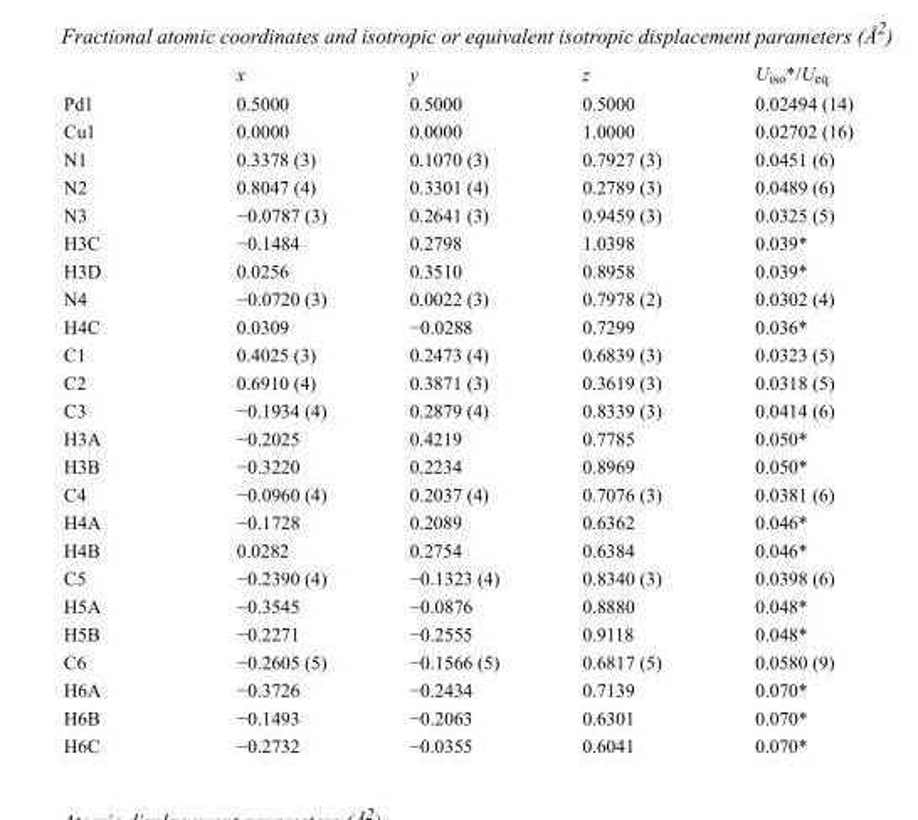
<table><thead><tr><td></td><td>x</td><td>y</td><td>z</td><td>U<sub>iso</sub>*/U<sub>eq</sub></td></tr></thead><tbody><tr><td>Pd1</td><td>0.5000</td><td>0.5000</td><td>0.5000</td><td>0.02494 (14)</td></tr><tr><td>Cu1</td><td>0.0000</td><td>0.0000</td><td>1.0000</td><td>0.02702 (16)</td></tr><tr><td>N1</td><td>0.3378 (3)</td><td>0.1070 (3)</td><td>0.7927 (3)</td><td>0.0451 (6)</td></tr><tr><td>N2</td><td>0.8047 (4)</td><td>0.3301 (4)</td><td>0.2789 (3)</td><td>0.0489 (6)</td></tr><tr><td>N3</td><td>−0.0787 (3)</td><td>0.2641 (3)</td><td>0.9459 (3)</td><td>0.0325 (5)</td></tr><tr><td>H3C</td><td>−0.1484</td><td>0.2798</td><td>1.0398</td><td>0.039*</td></tr><tr><td>H3D</td><td>0.0256</td><td>0.3510</td><td>0.8958</td><td>0.039*</td></tr><tr><td>N4</td><td>−0.0720 (3)</td><td>0.0022 (3)</td><td>0.7978 (2)</td><td>0.0302 (4)</td></tr><tr><td>H4C</td><td>0.0309</td><td>−0.0288</td><td>0.7299</td><td>0.036*</td></tr><tr><td>C1</td><td>0.4025 (3)</td><td>0.2473 (4)</td><td>0.6839 (3)</td><td>0.0323 (5)</td></tr><tr><td>C2</td><td>0.6910 (4)</td><td>0.3871 (3)</td><td>0.3619 (3)</td><td>0.0318 (5)</td></tr><tr><td>C3</td><td>−0.1934 (4)</td><td>0.2879 (4)</td><td>0.8339 (3)</td><td>0.0414 (6)</td></tr><tr><td>H3A</td><td>−0.2025</td><td>0.4219</td><td>0.7785</td><td>0.050*</td></tr><tr><td>H3B</td><td>−0.3220</td><td>0.2234</td><td>0.8969</td><td>0.050*</td></tr><tr><td>C4</td><td>−0.0960 (4)</td><td>0.2037 (4)</td><td>0.7076 (3)</td><td>0.0381 (6)</td></tr><tr><td>H4A</td><td>−0.1728</td><td>0.2089</td><td>0.6362</td><td>0.046*</td></tr><tr><td>H4B</td><td>0.0282</td><td>0.2754</td><td>0.6384</td><td>0.046*</td></tr><tr><td>C5</td><td>−0.2390 (4)</td><td>−0.1323 (4)</td><td>0.8340 (3)</td><td>0.0398 (6)</td></tr><tr><td>H5A</td><td>−0.3545</td><td>−0.0876</td><td>0.8880</td><td>0.048*</td></tr><tr><td>H5B</td><td>−0.2271</td><td>−0.2555</td><td>0.9118</td><td>0.048*</td></tr><tr><td>C6</td><td>−0.2605 (5)</td><td>−0.1566 (5)</td><td>0.6817 (5)</td><td>0.0580 (9)</td></tr><tr><td>H6A</td><td>−0.3726</td><td>−0.2434</td><td>0.7139</td><td>0.070*</td></tr><tr><td>H6B</td><td>−0.1493</td><td>−0.2063</td><td>0.6301</td><td>0.070*</td></tr><tr><td>H6C</td><td>−0.2732</td><td>−0.0355</td><td>0.6041</td><td>0.070*</td></tr></tbody></table>